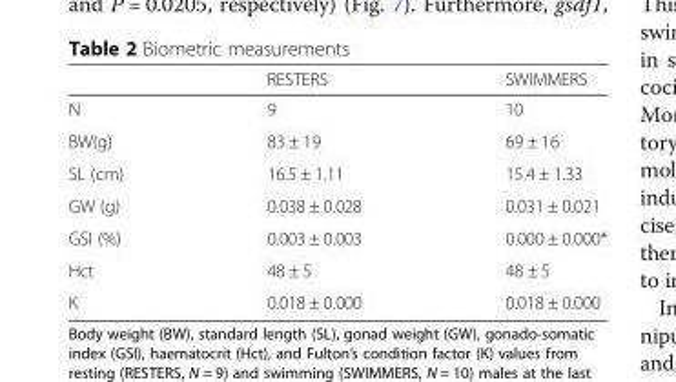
<table><thead><tr><td></td><td>RESTERS</td><td>SWIMMERS</td></tr></thead><tbody><tr><td>N</td><td>9</td><td>10</td></tr><tr><td>BW(g)</td><td>83 ± 19</td><td>69 ± 16</td></tr><tr><td>SL (cm)</td><td>16.5 ± 1.11</td><td>15.4 ± 1.33</td></tr><tr><td>GW (g)</td><td>0.038 ± 0.028</td><td>0.031 ± 0.021</td></tr><tr><td>GSI (%)</td><td>0.003 ± 0.003</td><td>0.000 ± 0.000*</td></tr><tr><td>Hct</td><td>48 ± 5</td><td>48 ± 5</td></tr><tr><td>K</td><td>0.018 ± 0.000</td><td>0.018 ± 0.000</td></tr></tbody></table>